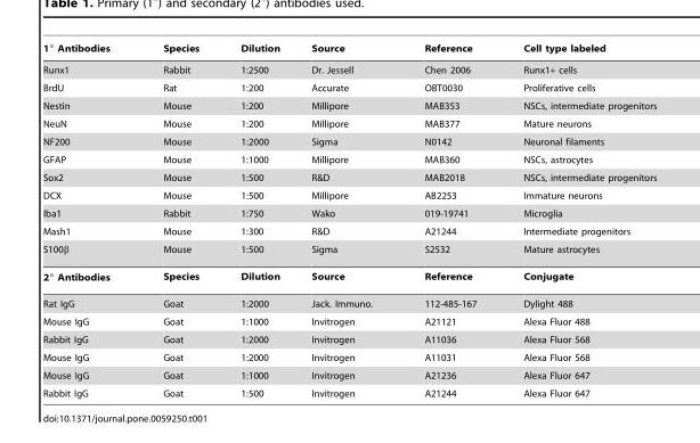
<table><thead><tr><td>1° Antibodies</td><td>Species</td><td>Dilution</td><td>Source</td><td>Reference</td><td>Cell type labeled</td></tr></thead><tbody><tr><td>Runx1</td><td>Rabbit</td><td>1:2500</td><td>Dr. Jessell</td><td>Chen 2006</td><td>Runx1+ cells</td></tr><tr><td>BrdU</td><td>Rat</td><td>1:200</td><td>Accurate</td><td>OBT0030</td><td>Proliferative cells</td></tr><tr><td>Nestin</td><td>Mouse</td><td>1:200</td><td>Millipore</td><td>MAB353</td><td>NSCs, intermediate progenitors</td></tr><tr><td>NeuN</td><td>Mouse</td><td>1:200</td><td>Millipore</td><td>MAB377</td><td>Mature neurons</td></tr><tr><td>NF200</td><td>Mouse</td><td>1:2000</td><td>Sigma</td><td>N0142</td><td>Neuronal filaments</td></tr><tr><td>GFAP</td><td>Mouse</td><td>1:1000</td><td>Millipore</td><td>MAB360</td><td>NSCs, astrocytes</td></tr><tr><td>Sox2</td><td>Mouse</td><td>1:500</td><td>R&amp;D</td><td>MAB2018</td><td>NSCs, intermediate progenitors</td></tr><tr><td>DCX</td><td>Mouse</td><td>1:500</td><td>Millipore</td><td>AB2253</td><td>Immature neurons</td></tr><tr><td>Iba1</td><td>Rabbit</td><td>1:750</td><td>Wako</td><td>019-19741</td><td>Microglia</td></tr><tr><td>Mash1</td><td>Mouse</td><td>1:300</td><td>R&amp;D</td><td>A21244</td><td>Intermediate progenitors</td></tr><tr><td>S100β</td><td>Mouse</td><td>1:500</td><td>Sigma</td><td>S2532</td><td>Mature astrocytes</td></tr><tr><td>2° Antibodies</td><td>Species</td><td>Dilution</td><td>Source</td><td>Reference</td><td>Conjugate</td></tr><tr><td>Rat IgG</td><td>Goat</td><td>1:2000</td><td>Jack. Immuno.</td><td>112-485-167</td><td>Dylight 488</td></tr><tr><td>Mouse IgG</td><td>Goat</td><td>1:1000</td><td>Invitrogen</td><td>A21121</td><td>Alexa Fluor 488</td></tr><tr><td>Rabbit IgG</td><td>Goat</td><td>1:2000</td><td>Invitrogen</td><td>A11036</td><td>Alexa Fluor 568</td></tr><tr><td>Mouse IgG</td><td>Goat</td><td>1:2000</td><td>Invitrogen</td><td>A11031</td><td>Alexa Fluor 568</td></tr><tr><td>Mouse IgG</td><td>Goat</td><td>1:1000</td><td>Invitrogen</td><td>A21236</td><td>Alexa Fluor 647</td></tr><tr><td>Rabbit IgG</td><td>Goat</td><td>1:500</td><td>Invitrogen</td><td>A21244</td><td>Alexa Fluor 647</td></tr></tbody></table>